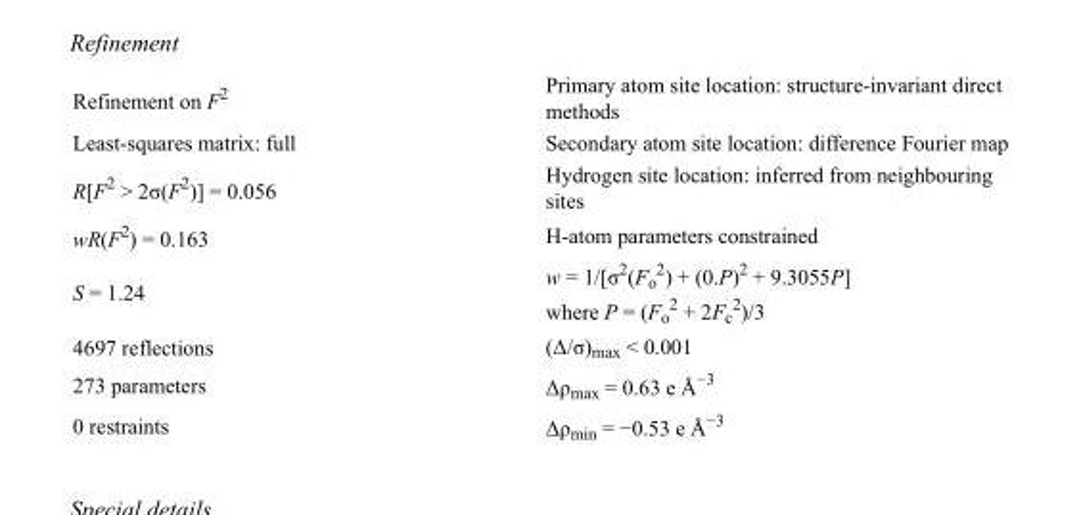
<table><tbody><tr><td>Refinement on F<sup>2</sup></td><td>Primary atom site location: structure-invariant direct methods</td></tr><tr><td>Least-squares matrix: full</td><td>Secondary atom site location: difference Fourier map</td></tr><tr><td>R[F<sup>2</sup> &gt; 2σ(F<sup>2</sup>)] = 0.056</td><td>Hydrogen site location: inferred from neighbouring sites</td></tr><tr><td>wR(F<sup>2</sup>) = 0.163</td><td>H-atom parameters constrained</td></tr><tr><td>S = 1.24</td><td>w = 1/[σ<sup>2</sup>(F<sub>o</sub> <sup>2</sup>) + (0.P)<sup>2</sup> + 9.3055P] where P = (F<sub>o</sub> <sup>2</sup> + 2F<sub>c</sub> <sup>2</sup>)/3</td></tr><tr><td>4697 reflections</td><td>(Δ/σ)<sub>max</sub> &lt; 0.001</td></tr><tr><td>273 parameters</td><td>Δρ<sub>max</sub> = 0.63 e Å<sup>−3</sup></td></tr><tr><td>0 restraints</td><td>Δρ<sub>min</sub> = −0.53 e Å<sup>−3</sup></td></tr></tbody></table>